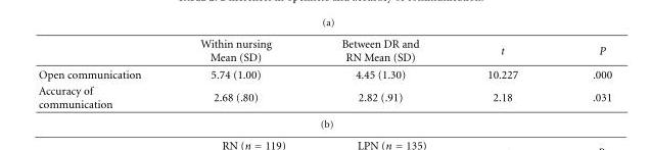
<table><thead><tr><td></td><td>Within nursing Mean (SD)</td><td>Between DR and RN Mean (SD)</td><td>t</td><td>P</td></tr></thead><tbody><tr><td>Open communication</td><td>5.74 (1.00)</td><td>4.45 (1.30)</td><td>10.227</td><td>.000</td></tr><tr><td>Accuracy of communication</td><td>2.68 (.80)</td><td>2.82 (.91)</td><td>2.18</td><td>.031</td></tr></tbody></table>